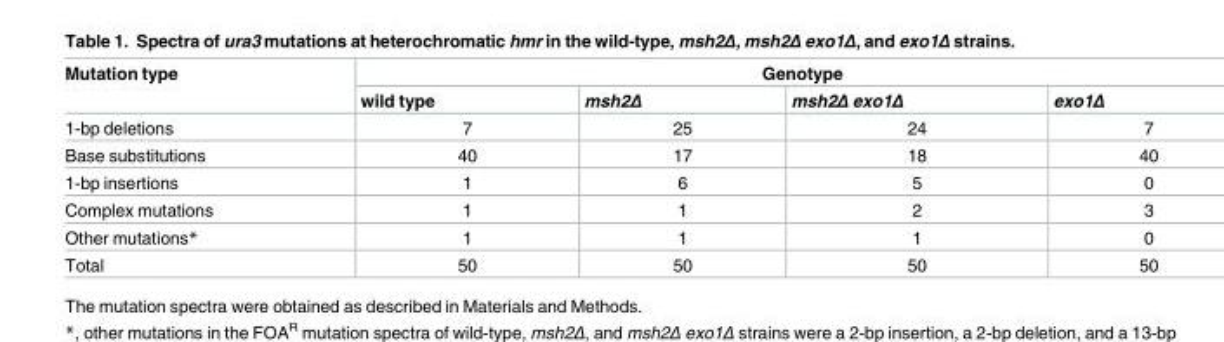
<table><thead><tr><td rowspan="2">Mutation type</td><td colspan="4">Genotype</td></tr><tr><td>wild type</td><td>msh2Δ</td><td>msh2Δ exo1Δ</td><td>exo1Δ</td></tr></thead><tbody><tr><td>1-bp deletions</td><td>7</td><td>25</td><td>24</td><td>7</td></tr><tr><td>Base substitutions</td><td>40</td><td>17</td><td>18</td><td>40</td></tr><tr><td>1-bp insertions</td><td>1</td><td>6</td><td>5</td><td>0</td></tr><tr><td>Complex mutations</td><td>1</td><td>1</td><td>2</td><td>3</td></tr><tr><td>Other mutations*</td><td>1</td><td>1</td><td>1</td><td>0</td></tr><tr><td>Total</td><td>50</td><td>50</td><td>50</td><td>50</td></tr></tbody></table>